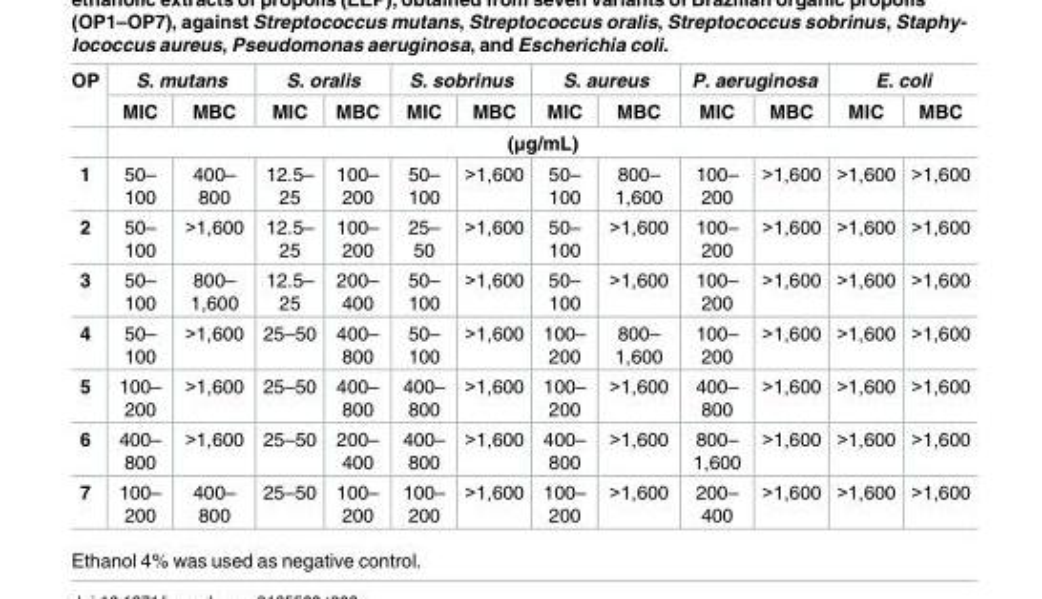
<table><thead><tr><td rowspan="3">OP</td><td colspan="2">S. mutans</td><td colspan="2">S. oralis</td><td colspan="2">S. sobrinus</td><td colspan="2">S. aureus</td><td colspan="2">P. aeruginosa</td><td colspan="2">E. coli</td></tr><tr><td>MIC</td><td>MBC</td><td>MIC</td><td>MBC</td><td>MIC</td><td>MBC</td><td>MIC</td><td>MBC</td><td>MIC</td><td>MBC</td><td>MIC</td><td>MBC</td></tr><tr><td colspan="12">(μg/mL)</td></tr></thead><tbody><tr><td>1</td><td>50– 100</td><td>400– 800</td><td>12.5– 25</td><td>100– 200</td><td>50– 100</td><td>&gt;1,600</td><td>50– 100</td><td>800– 1,600</td><td>100– 200</td><td>&gt;1,600</td><td>&gt;1,600</td><td>&gt;1,600</td></tr><tr><td>2</td><td>50– 100</td><td>&gt;1,600</td><td>12.5– 25</td><td>100– 200</td><td>25– 50</td><td>&gt;1,600</td><td>50– 100</td><td>&gt;1,600</td><td>100– 200</td><td>&gt;1,600</td><td>&gt;1,600</td><td>&gt;1,600</td></tr><tr><td>3</td><td>50– 100</td><td>800– 1,600</td><td>12.5– 25</td><td>200– 400</td><td>50– 100</td><td>&gt;1,600</td><td>50– 100</td><td>&gt;1,600</td><td>100– 200</td><td>&gt;1,600</td><td>&gt;1,600</td><td>&gt;1,600</td></tr><tr><td>4</td><td>50– 100</td><td>&gt;1,600</td><td>25–50</td><td>400– 800</td><td>50– 100</td><td>&gt;1,600</td><td>100– 200</td><td>800– 1,600</td><td>100– 200</td><td>&gt;1,600</td><td>&gt;1,600</td><td>&gt;1,600</td></tr><tr><td>5</td><td>100– 200</td><td>&gt;1,600</td><td>25–50</td><td>400– 800</td><td>400– 800</td><td>&gt;1,600</td><td>100– 200</td><td>&gt;1,600</td><td>400– 800</td><td>&gt;1,600</td><td>&gt;1,600</td><td>&gt;1,600</td></tr><tr><td>6</td><td>400– 800</td><td>&gt;1,600</td><td>25–50</td><td>200– 400</td><td>400– 800</td><td>&gt;1,600</td><td>400– 800</td><td>&gt;1,600</td><td>800– 1,600</td><td>&gt;1,600</td><td>&gt;1,600</td><td>&gt;1,600</td></tr><tr><td>7</td><td>100– 200</td><td>400– 800</td><td>25–50</td><td>100– 200</td><td>100– 200</td><td>&gt;1,600</td><td>100– 200</td><td>&gt;1,600</td><td>200– 400</td><td>&gt;1,600</td><td>&gt;1,600</td><td>&gt;1,600</td></tr></tbody></table>